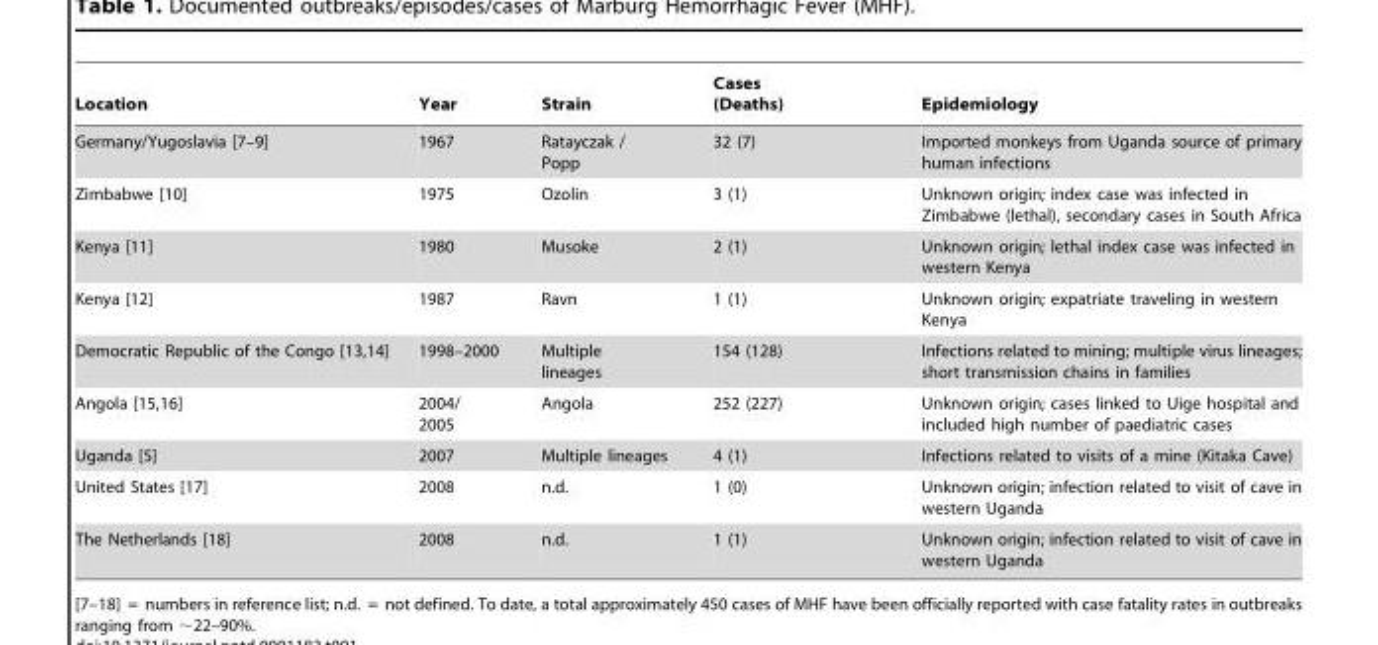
<table><thead><tr><td>Location</td><td>Year</td><td>Strain</td><td>Cases (Deaths)</td><td>Epidemiology</td></tr></thead><tbody><tr><td>Germany/Yugoslavia [7–9]</td><td>1967</td><td>Ratayczak / Popp</td><td>32 (7)</td><td>Imported monkeys from Uganda source of primary human infections</td></tr><tr><td>Zimbabwe [10]</td><td>1975</td><td>Ozolin</td><td>3 (1)</td><td>Unknown origin; index case was infected in Zimbabwe (lethal), secondary cases in South Africa</td></tr><tr><td>Kenya [11]</td><td>1980</td><td>Musoke</td><td>2 (1)</td><td>Unknown origin; lethal index case was infected in western Kenya</td></tr><tr><td>Kenya [12]</td><td>1987</td><td>Ravn</td><td>1 (1)</td><td>Unknown origin; expatriate traveling in western Kenya</td></tr><tr><td>Democratic Republic of the Congo [13,14]</td><td>1998–2000</td><td>Multiple lineages</td><td>154 (128)</td><td>Infections related to mining; multiple virus lineages; short transmission chains in families</td></tr><tr><td>Angola [15,16]</td><td>2004/ 2005</td><td>Angola</td><td>252 (227)</td><td>Unknown origin; cases linked to Uige hospital and included high number of paediatric cases</td></tr><tr><td>Uganda [5]</td><td>2007</td><td>Multiple lineages</td><td>4 (1)</td><td>Infections related to visits of a mine (Kitaka Cave)</td></tr><tr><td>United States [17]</td><td>2008</td><td>n.d.</td><td>1 (0)</td><td>Unknown origin; infection related to visit of cave in western Uganda</td></tr><tr><td>The Netherlands [18]</td><td>2008</td><td>n.d.</td><td>1 (1)</td><td>Unknown origin; infection related to visit of cave in western Uganda</td></tr></tbody></table>